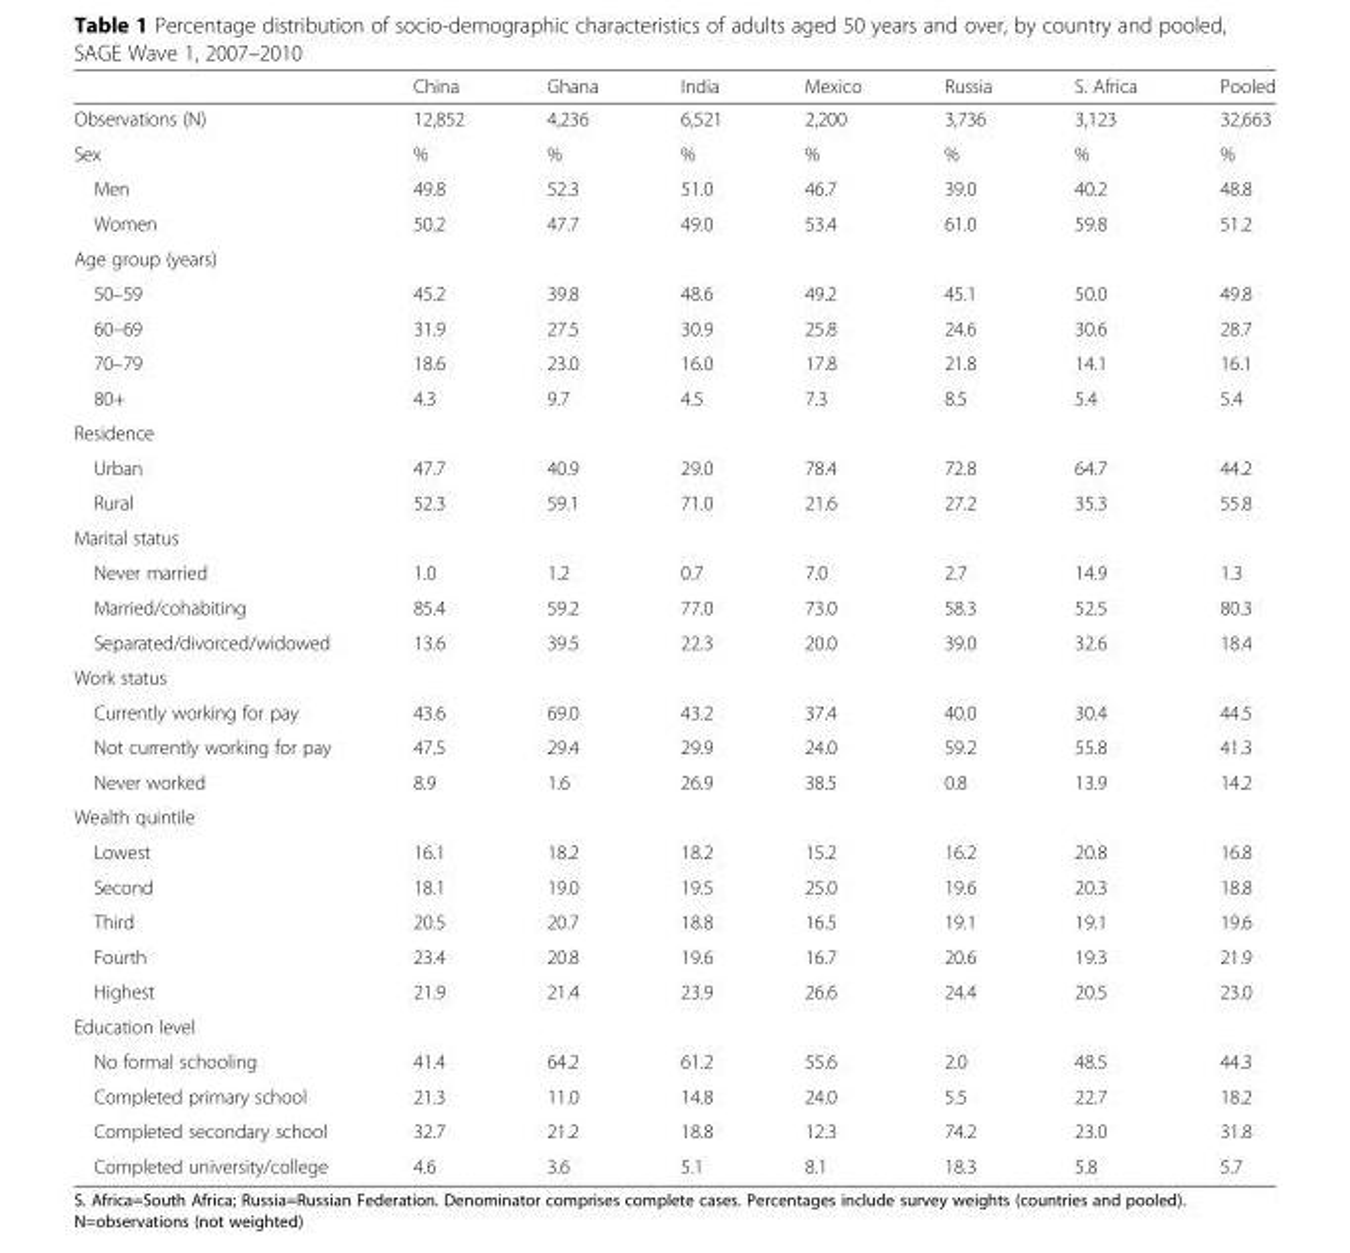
<table><thead><tr><td></td><td>China</td><td>Ghana</td><td>India</td><td>Mexico</td><td>Russia</td><td>S. Africa</td><td>Pooled</td></tr></thead><tbody><tr><td>Observations (N)</td><td>12,852</td><td>4,236</td><td>6,521</td><td>2,200</td><td>3,736</td><td>3,123</td><td>32,663</td></tr><tr><td>Sex</td><td>%</td><td>%</td><td>%</td><td>%</td><td>%</td><td>%</td><td>%</td></tr><tr><td>Men</td><td>49.8</td><td>52.3</td><td>51.0</td><td>46.7</td><td>39.0</td><td>40.2</td><td>48.8</td></tr><tr><td>Women</td><td>50.2</td><td>47.7</td><td>49.0</td><td>53.4</td><td>61.0</td><td>59.8</td><td>51.2</td></tr><tr><td colspan="8">Age group (years)</td></tr><tr><td>50–59</td><td>45.2</td><td>39.8</td><td>48.6</td><td>49.2</td><td>45.1</td><td>50.0</td><td>49.8</td></tr><tr><td>60–69</td><td>31.9</td><td>27.5</td><td>30.9</td><td>25.8</td><td>24.6</td><td>30.6</td><td>28.7</td></tr><tr><td>70–79</td><td>18.6</td><td>23.0</td><td>16.0</td><td>17.8</td><td>21.8</td><td>14.1</td><td>16.1</td></tr><tr><td>80+</td><td>4.3</td><td>9.7</td><td>4.5</td><td>7.3</td><td>8.5</td><td>5.4</td><td>5.4</td></tr><tr><td colspan="8">Residence</td></tr><tr><td>Urban</td><td>47.7</td><td>40.9</td><td>29.0</td><td>78.4</td><td>72.8</td><td>64.7</td><td>44.2</td></tr><tr><td>Rural</td><td>52.3</td><td>59.1</td><td>71.0</td><td>21.6</td><td>27.2</td><td>35.3</td><td>55.8</td></tr><tr><td colspan="8">Marital status</td></tr><tr><td>Never married</td><td>1.0</td><td>1.2</td><td>0.7</td><td>7.0</td><td>2.7</td><td>14.9</td><td>1.3</td></tr><tr><td>Married/cohabiting</td><td>85.4</td><td>59.2</td><td>77.0</td><td>73.0</td><td>58.3</td><td>52.5</td><td>80.3</td></tr><tr><td>Separated/divorced/widowed</td><td>13.6</td><td>39.5</td><td>22.3</td><td>20.0</td><td>39.0</td><td>32.6</td><td>18.4</td></tr><tr><td colspan="8">Work status</td></tr><tr><td>Currently working for pay</td><td>43.6</td><td>69.0</td><td>43.2</td><td>37.4</td><td>40.0</td><td>30.4</td><td>44.5</td></tr><tr><td>Not currently working for pay</td><td>47.5</td><td>29.4</td><td>29.9</td><td>24.0</td><td>59.2</td><td>55.8</td><td>41.3</td></tr><tr><td>Never worked</td><td>8.9</td><td>1.6</td><td>26.9</td><td>38.5</td><td>0.8</td><td>13.9</td><td>14.2</td></tr><tr><td colspan="8">Wealth quintile</td></tr><tr><td>Lowest</td><td>16.1</td><td>18.2</td><td>18.2</td><td>15.2</td><td>16.2</td><td>20.8</td><td>16.8</td></tr><tr><td>Second</td><td>18.1</td><td>19.0</td><td>19.5</td><td>25.0</td><td>19.6</td><td>20.3</td><td>18.8</td></tr><tr><td>Third</td><td>20.5</td><td>20.7</td><td>18.8</td><td>16.5</td><td>19.1</td><td>19.1</td><td>19.6</td></tr><tr><td>Fourth</td><td>23.4</td><td>20.8</td><td>19.6</td><td>16.7</td><td>20.6</td><td>19.3</td><td>21.9</td></tr><tr><td>Highest</td><td>21.9</td><td>21.4</td><td>23.9</td><td>26.6</td><td>24.4</td><td>20.5</td><td>23.0</td></tr><tr><td colspan="8">Education level</td></tr><tr><td>No formal schooling</td><td>41.4</td><td>64.2</td><td>61.2</td><td>55.6</td><td>2.0</td><td>48.5</td><td>44.3</td></tr><tr><td>Completed primary school</td><td>21.3</td><td>11.0</td><td>14.8</td><td>24.0</td><td>5.5</td><td>22.7</td><td>18.2</td></tr><tr><td>Completed secondary school</td><td>32.7</td><td>21.2</td><td>18.8</td><td>12.3</td><td>74.2</td><td>23.0</td><td>31.8</td></tr><tr><td>Completed university/college</td><td>4.6</td><td>3.6</td><td>5.1</td><td>8.1</td><td>18.3</td><td>5.8</td><td>5.7</td></tr></tbody></table>